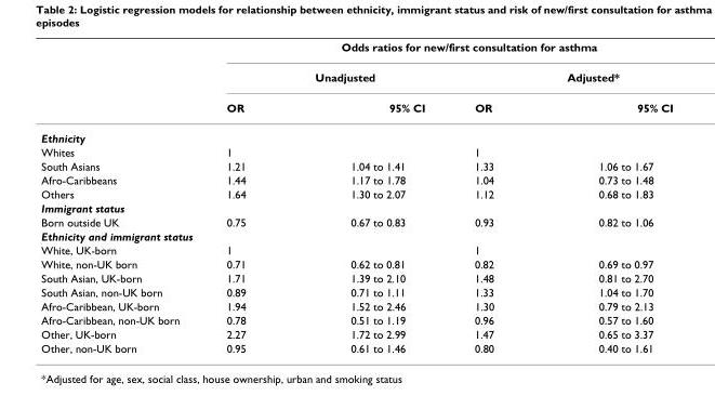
<table><thead><tr><td rowspan="3"></td><td colspan="4">Odds ratios for new/first consultation for asthma</td></tr><tr><td colspan="2">Unadjusted</td><td colspan="2">Adjusted*</td></tr><tr><td>OR</td><td>95% CI</td><td>OR</td><td>95% CI</td></tr></thead><tbody><tr><td colspan="5">Ethnicity</td></tr><tr><td>Whites</td><td>1</td><td></td><td>1</td><td></td></tr><tr><td>South Asians</td><td>1.21</td><td>1.04 to 1.41</td><td>1.33</td><td>1.06 to 1.67</td></tr><tr><td>Afro-Caribbeans</td><td>1.44</td><td>1.17 to 1.78</td><td>1.04</td><td>0.73 to 1.48</td></tr><tr><td>Others</td><td>1.64</td><td>1.30 to 2.07</td><td>1.12</td><td>0.68 to 1.83</td></tr><tr><td colspan="5">Immigrant status</td></tr><tr><td>Born outside UK</td><td>0.75</td><td>0.67 to 0.83</td><td>0.93</td><td>0.82 to 1.06</td></tr><tr><td colspan="5">Ethnicity and immigrant status</td></tr><tr><td>White, UK-born</td><td>1</td><td></td><td>1</td><td></td></tr><tr><td>White, non-UK born</td><td>0.71</td><td>0.62 to 0.81</td><td>0.82</td><td>0.69 to 0.97</td></tr><tr><td>South Asian, UK-born</td><td>1.71</td><td>1.39 to 2.10</td><td>1.48</td><td>0.81 to 2.70</td></tr><tr><td>South Asian, non-UK born</td><td>0.89</td><td>0.71 to 1.11</td><td>1.33</td><td>1.04 to 1.70</td></tr><tr><td>Afro-Caribbean, UK-born</td><td>1.94</td><td>1.52 to 2.46</td><td>1.30</td><td>0.79 to 2.13</td></tr><tr><td>Afro-Caribbean, non-UK born</td><td>0.78</td><td>0.51 to 1.19</td><td>0.96</td><td>0.57 to 1.60</td></tr><tr><td>Other, UK-born</td><td>2.27</td><td>1.72 to 2.99</td><td>1.47</td><td>0.65 to 3.37</td></tr><tr><td>Other, non-UK born</td><td>0.95</td><td>0.61 to 1.46</td><td>0.80</td><td>0.40 to 1.61</td></tr></tbody></table>